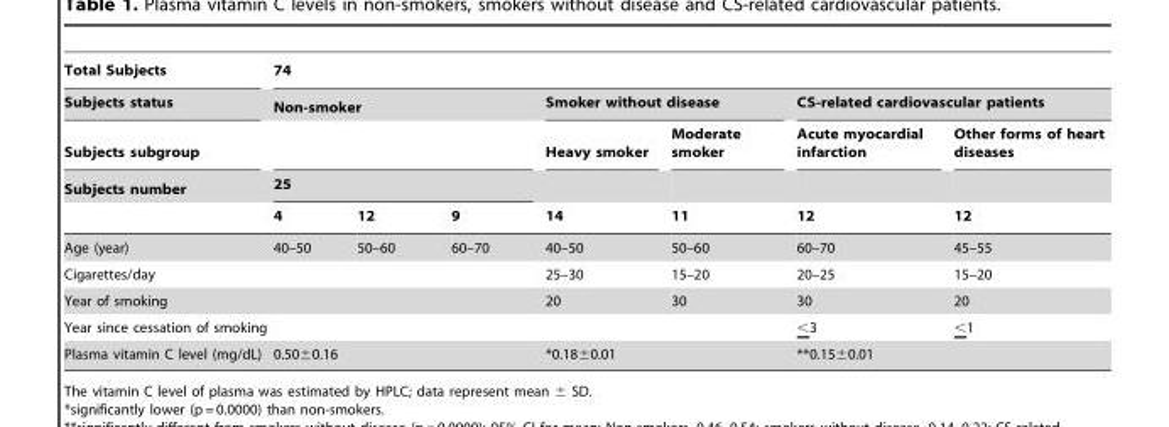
<table><thead><tr><td rowspan="5">Total Subjects Subjects status Subjects subgroup Subjects number</td><td colspan="7">74</td></tr><tr><td colspan="3">Non-smoker</td><td colspan="2">Smoker without disease</td><td colspan="2">CS-related cardiovascular patients</td></tr><tr><td></td><td></td><td></td><td rowspan="3">Heavy smoker 14</td><td rowspan="3">Moderate smoker 11</td><td rowspan="3">Acute myocardial infarction 12</td><td rowspan="3">Other forms of heart diseases 12</td></tr><tr><td colspan="3">25</td></tr><tr><td>4</td><td>12</td><td>9</td></tr></thead><tbody><tr><td>Age (year)</td><td>40–50</td><td>50–60</td><td>60–70</td><td>40–50</td><td>50–60</td><td>60–70</td><td>45–55</td></tr><tr><td>Cigarettes/day</td><td colspan="3"></td><td>25–30</td><td>15–20</td><td>20–25</td><td>15–20</td></tr><tr><td>Year of smoking</td><td colspan="3"></td><td>20</td><td>30</td><td>30</td><td>20</td></tr><tr><td>Year since cessation of smoking</td><td colspan="3"></td><td colspan="2"></td><td>&lt;3</td><td>&lt;1</td></tr><tr><td>Plasma vitamin C level (mg/dL)</td><td colspan="3">0.50±0.16</td><td colspan="2">*0.18±0.01</td><td colspan="2">**0.15±0.01</td></tr></tbody></table>